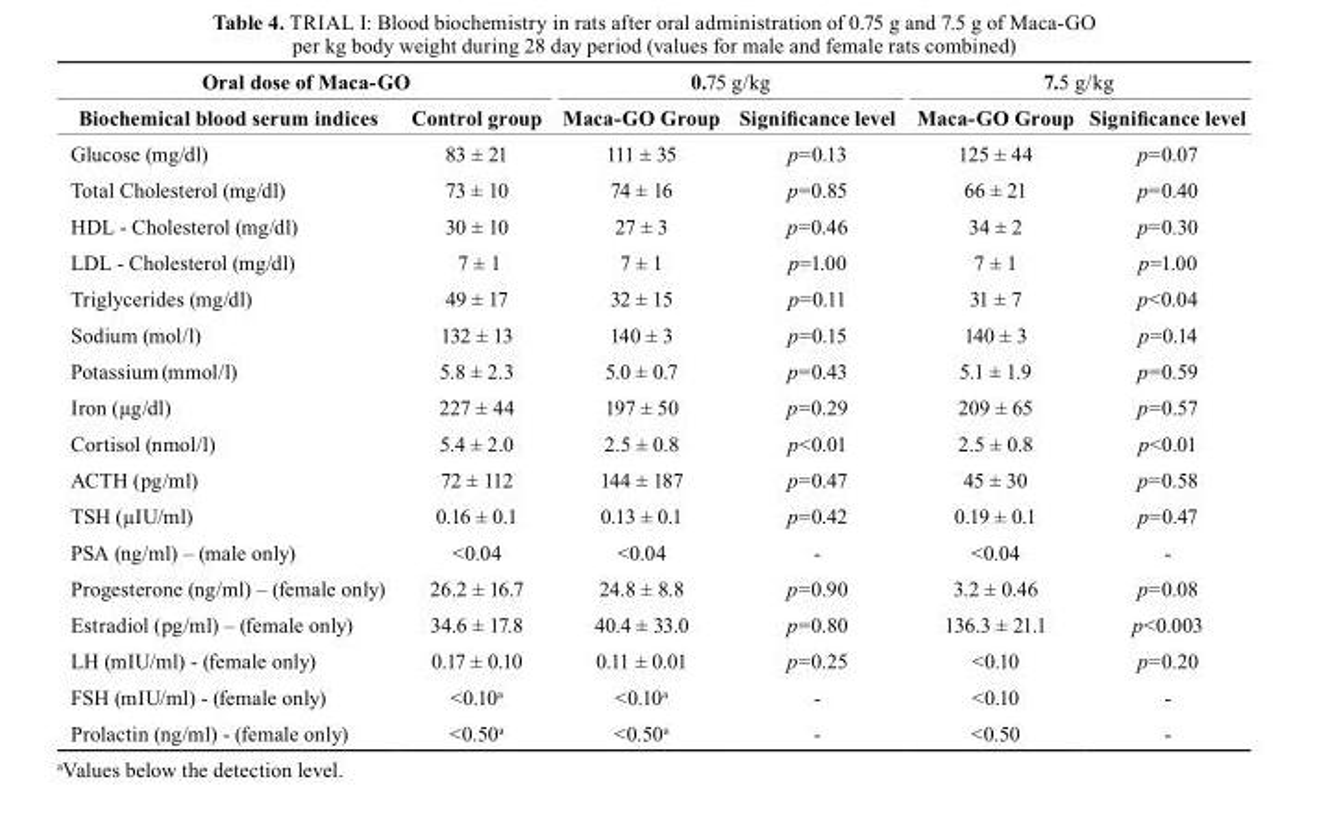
<table><thead><tr><td colspan="2">Oral dose of Maca-GO</td><td colspan="2">0.75 g/kg</td><td colspan="2">7.5 g/kg</td></tr><tr><td>biochemical blood serum indices</td><td>control group</td><td>Maca-GO Group</td><td>Significance level</td><td>Maca-GO Group</td><td>Significance level</td></tr></thead><tbody><tr><td>Glucose (mg/dl)</td><td>83 ± 21</td><td>111 ± 35</td><td>p=0.13</td><td>125 ± 44</td><td>p=0.07</td></tr><tr><td>Total Cholesterol (mg/dl)</td><td>73 ± 10</td><td>74 ± 16</td><td>p=0.85</td><td>66 ± 21</td><td>p=0.40</td></tr><tr><td>HDL - Cholesterol (mg/dl)</td><td>30 ± 10</td><td>27 ± 3</td><td>p=0.46</td><td>34 ± 2</td><td>p=0.30</td></tr><tr><td>LDL - Cholesterol (mg/dl)</td><td>7 ± 1</td><td>7 ± 1</td><td>p=1.00</td><td>7 ± 1</td><td>p=1.00</td></tr><tr><td>Triglycerides (mg/dl)</td><td>49 ± 17</td><td>32 ± 15</td><td>p=0.11</td><td>31 ± 7</td><td>p&lt;0.04</td></tr><tr><td>Sodium (mol/l)</td><td>132 ± 13</td><td>140 ± 3</td><td>p=0.15</td><td>140 ± 3</td><td>p=0.14</td></tr><tr><td>Potassium (mmol/l)</td><td>5.8 ± 2.3</td><td>5.0 ± 0.7</td><td>p=0.43</td><td>5.1 ± 1.9</td><td>p=0.59</td></tr><tr><td>Iron (µg/dl)</td><td>227 ± 44</td><td>197 ± 50</td><td>p=0.29</td><td>209 ± 65</td><td>p=0.57</td></tr><tr><td>Cortisol (nmol/l)</td><td>5.4 ± 2.0</td><td>2.5 ± 0.8</td><td>p&lt;0.01</td><td>2.5 ± 0.8</td><td>p&lt;0.01</td></tr><tr><td>ACTH (pg/ml)</td><td>72 ± 112</td><td>144 ± 187</td><td>p=0.47</td><td>45 ± 30</td><td>p=0.58</td></tr><tr><td>TSH (µIU/ml)</td><td>0.16 ± 0.1</td><td>0.13 ± 0.1</td><td>p=0.42</td><td>0.19 ± 0.1</td><td>p=0.47</td></tr><tr><td>PSA (ng/ml) – (male only)</td><td>&lt;0.04</td><td>&lt;0.04</td><td>-</td><td>&lt;0.04</td><td>-</td></tr><tr><td>Progesterone (ng/ml) – (female only)</td><td>26.2 ± 16.7</td><td>24.8 ± 8.8</td><td>p=0.90</td><td>3.2 ± 0.46</td><td>p=0.08</td></tr><tr><td>Estradiol (pg/ml) – (female only)</td><td>34.6 ± 17.8</td><td>40.4 ± 33.0</td><td>p=0.80</td><td>136.3 ± 21.1</td><td>p&lt;0.003</td></tr><tr><td>LH (mIU/ml) - (female only)</td><td>0.17 ± 0.10</td><td>0.11 ± 0.01</td><td>p=0.25</td><td>&lt;0.10</td><td>p=0.20</td></tr><tr><td>FSH (mIU/ml) - (female only)</td><td>&lt;0.10<sup>a</sup></td><td>&lt;0.10<sup>a</sup></td><td>-</td><td>&lt;0.10</td><td>-</td></tr><tr><td>Prolactin (ng/ml) - (female only)</td><td>&lt;0.50<sup>a</sup></td><td>&lt;0.50<sup>a</sup></td><td>-</td><td>&lt;0.50</td><td>-</td></tr></tbody></table>